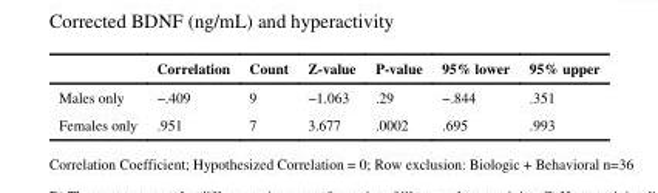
<table><thead><tr><td></td><td>Correlation</td><td>Count</td><td>Z-value</td><td>P-value</td><td>95% lower</td><td>95% upper</td></tr></thead><tbody><tr><td>Males only</td><td>−.409</td><td>9</td><td>−1.063</td><td>.29</td><td>−.844</td><td>.351</td></tr><tr><td>Females only</td><td>.951</td><td>7</td><td>3.677</td><td>.0002</td><td>.695</td><td>.993</td></tr></tbody></table>